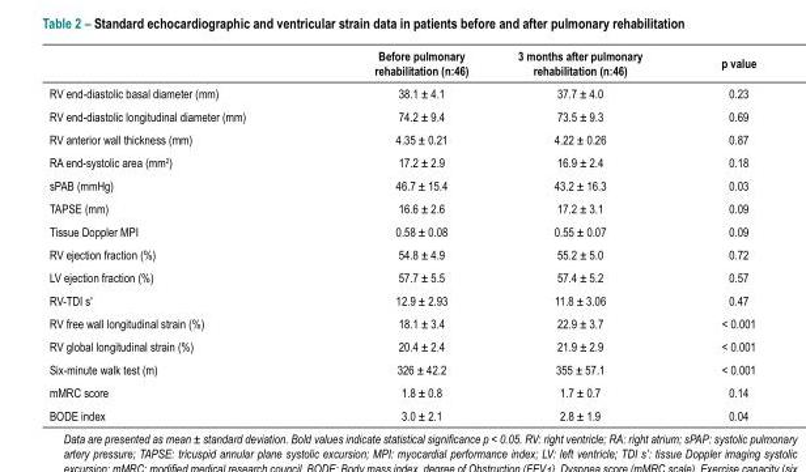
<table><thead><tr><td></td><td>Before pulmonary rehabilitation (n:46)</td><td>3 months after pulmonary rehabilitation (n:46)</td><td>p value</td></tr></thead><tbody><tr><td>RV end-diastolic basal diameter (mm)</td><td>38.1 ± 4.1</td><td>37.7 ± 4.0</td><td>0.23</td></tr><tr><td>RV end-diastolic longitudinal diameter (mm)</td><td>74.2 ± 9.4</td><td>73.5 ± 9.3</td><td>0.69</td></tr><tr><td>RV anterior wall thickness (mm)</td><td>4.35 ± 0.21</td><td>4.22 ± 0.26</td><td>0.87</td></tr><tr><td>RA end-systolic area (mm<sup>2</sup>)</td><td>17.2 ± 2.9</td><td>16.9 ± 2.4</td><td>0.18</td></tr><tr><td>sPAB (mmHg)</td><td>46.7 ± 15.4</td><td>43.2 ± 16.3</td><td>0.03</td></tr><tr><td>TAPSE (mm)</td><td>16.6 ± 2.6</td><td>17.2 ± 3.1</td><td>0.09</td></tr><tr><td>Tissue Doppler MPI</td><td>0.58 ± 0.08</td><td>0.55 ± 0.07</td><td>0.09</td></tr><tr><td>RV ejection fraction (%)</td><td>54.8 ± 4.9</td><td>55.2 ± 5.0</td><td>0.72</td></tr><tr><td>LV ejection fraction (%)</td><td>57.7 ± 5.5</td><td>57.4 ± 5.2</td><td>0.57</td></tr><tr><td>RV-TDI s&#x27;</td><td>12.9 ± 2.93</td><td>11.8 ± 3.06</td><td>0.47</td></tr><tr><td>RV free wall longitudinal strain (%)</td><td>18.1 ± 3.4</td><td>22.9 ± 3.7</td><td>&lt; 0.001</td></tr><tr><td>RV global longitudinal strain (%)</td><td>20.4 ± 2.4</td><td>21.9 ± 2.9</td><td>&lt; 0.001</td></tr><tr><td>Six-minute walk test (m)</td><td>326 ± 42.2</td><td>355 ± 57.1</td><td>&lt; 0.001</td></tr><tr><td>mMRC score</td><td>1.8 ± 0.8</td><td>1.7 ± 0.7</td><td>0.14</td></tr><tr><td>BODE index</td><td>3.0 ± 2.1</td><td>2.8 ± 1.9</td><td>0.04</td></tr></tbody></table>